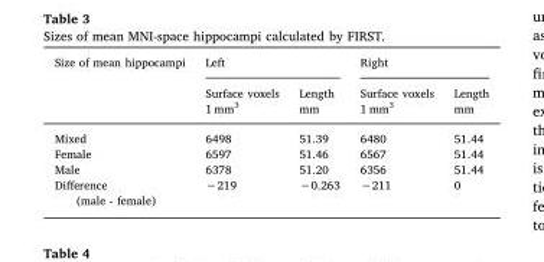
<table><thead><tr><td rowspan="2">Size of mean hippocampi</td><td colspan="2">Left</td><td colspan="2">Right</td></tr><tr><td>Surface voxels 1 mm<sup>3</sup></td><td>Length mm</td><td>Surface voxels 1 mm<sup>3</sup></td><td>Length mm</td></tr></thead><tbody><tr><td>Mixed</td><td>6498</td><td>51.39</td><td>6480</td><td>51.44</td></tr><tr><td>Female</td><td>6597</td><td>51.46</td><td>6567</td><td>51.44</td></tr><tr><td>Male</td><td>6378</td><td>51.20</td><td>6356</td><td>51.44</td></tr><tr><td>Difference (male - female)</td><td>−219</td><td>−0.263</td><td>−211</td><td>0</td></tr></tbody></table>